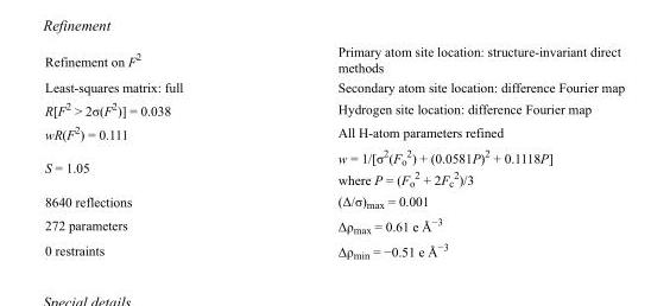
<table><tbody><tr><td>Refinement on F<sup>2</sup></td><td>Primary atom site location: structure-invariant direct methods</td></tr><tr><td>Least-squares matrix: full</td><td>Secondary atom site location: difference Fourier map</td></tr><tr><td>R[F<sup>2</sup> &gt; 2σ(F<sup>2</sup>)] = 0.038</td><td>Hydrogen site location: difference Fourier map</td></tr><tr><td>wR(F<sup>2</sup>) = 0.111</td><td>All H-atom parameters refined</td></tr><tr><td>S = 1.05</td><td>w = 1/[σ<sup>2</sup>(F<sub>o</sub> <sup>2</sup>) + (0.0581P)<sup>2</sup> + 0.1118P] where P = (F<sub>o</sub> <sup>2</sup> + 2F<sub>c</sub> <sup>2</sup>)/3</td></tr><tr><td>8640 reflections</td><td>(Δ/σ)<sub>max</sub> = 0.001</td></tr><tr><td>272 parameters</td><td>Δρ<sub>max</sub> = 0.61 e Å<sup>−3</sup></td></tr><tr><td>0 restraints</td><td>Δρ<sub>min</sub> = −0.51 e Å<sup>−3</sup></td></tr></tbody></table>